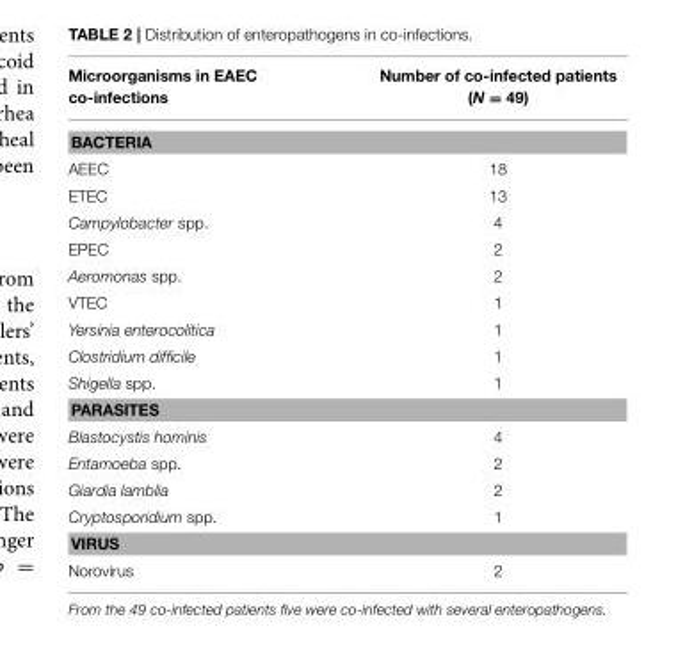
<table><thead><tr><td>Microorganisms in EAEC co-infections</td><td>Number of co-infected patients (N = 49)</td></tr></thead><tbody><tr><td colspan="2">BACTERIA</td></tr><tr><td>AEEC</td><td>18</td></tr><tr><td>ETEC</td><td>13</td></tr><tr><td>Campylobacter spp.</td><td>4</td></tr><tr><td>EPEC</td><td>2</td></tr><tr><td>Aeromonas spp.</td><td>2</td></tr><tr><td>VTEC</td><td>1</td></tr><tr><td>Yersinia enterocolitica</td><td>1</td></tr><tr><td>Clostridium difficile</td><td>1</td></tr><tr><td>Shigella spp.</td><td>1</td></tr><tr><td colspan="2">PARASITES</td></tr><tr><td>Blastocystis hominis</td><td>4</td></tr><tr><td>Entamoeba spp.</td><td>2</td></tr><tr><td>Giardia lamblia</td><td>2</td></tr><tr><td>Cryptosporidium spp.</td><td>1</td></tr><tr><td colspan="2">VIRUS</td></tr><tr><td>Norovirus</td><td>2</td></tr></tbody></table>